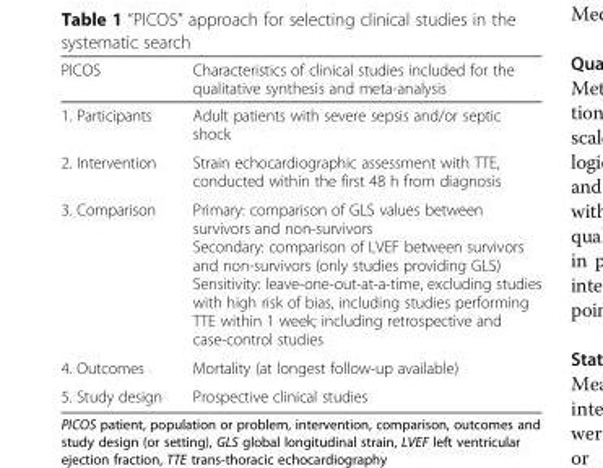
<table><thead><tr><td>PICOS</td><td>Characteristics of clinical studies included for the qualitative synthesis and meta-analysis</td></tr></thead><tbody><tr><td>1. Participants</td><td>Adult patients with severe sepsis and/or septic shock</td></tr><tr><td>2. Intervention</td><td>Strain echocardiographic assessment with TTE, conducted within the first 48 h from diagnosis</td></tr><tr><td>3. Comparison</td><td>Primary: comparison of GLS values between survivors and non-survivors Secondary: comparison of LVEF between survivors and non-survivors (only studies providing GLS) Sensitivity: leave-one-out-at-a-time, excluding studies with high risk of bias, including studies performing TTE within 1 week; including retrospective and case-control studies</td></tr><tr><td>4. Outcomes</td><td>Mortality (at longest follow-up available)</td></tr><tr><td>5. Study design</td><td>Prospective clinical studies</td></tr></tbody></table>